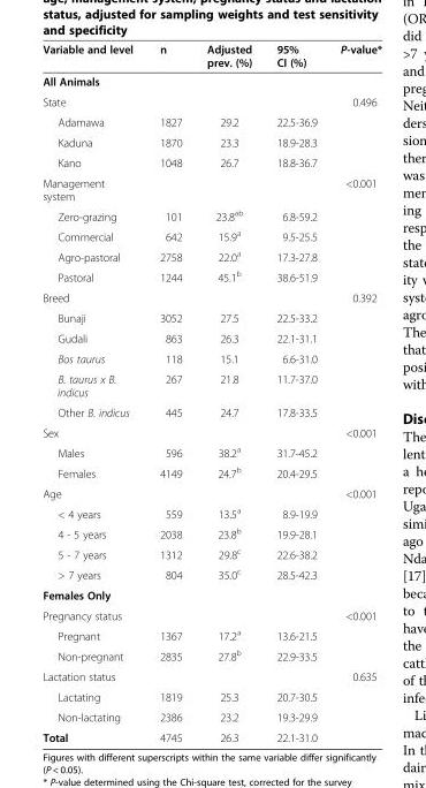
<table><thead><tr><td>Variable and level</td><td>n</td><td>Adjusted prev. (%)</td><td>95% CI (%)</td><td>P-value*</td></tr></thead><tbody><tr><td colspan="5">All Animals</td></tr><tr><td>State</td><td></td><td></td><td></td><td>0.496</td></tr><tr><td>Adamawa</td><td>1827</td><td>29.2</td><td>22.5-36.9</td><td></td></tr><tr><td>Kaduna</td><td>1870</td><td>23.3</td><td>18.9-28.3</td><td></td></tr><tr><td>Kano</td><td>1048</td><td>26.7</td><td>18.8-36.7</td><td></td></tr><tr><td>Management system</td><td></td><td></td><td></td><td>&lt;0.001</td></tr><tr><td>Zero-grazing</td><td>101</td><td>23.8<sup>ab</sup></td><td>6.8-59.2</td><td></td></tr><tr><td>Commercial</td><td>642</td><td>15.9<sup>a</sup></td><td>9.5-25.5</td><td></td></tr><tr><td>Agro-pastoral</td><td>2758</td><td>22.0<sup>a</sup></td><td>17.3-27.8</td><td></td></tr><tr><td>Pastoral</td><td>1244</td><td>45.1<sup>b</sup></td><td>38.6-51.9</td><td></td></tr><tr><td>Breed</td><td></td><td></td><td></td><td>0.392</td></tr><tr><td>Bunaji</td><td>3052</td><td>27.5</td><td>22.5-33.2</td><td></td></tr><tr><td>Gudali</td><td>863</td><td>26.3</td><td>22.1-31.1</td><td></td></tr><tr><td>Bos taurus</td><td>118</td><td>15.1</td><td>6.6-31.0</td><td></td></tr><tr><td>B. taurus x B. indicus</td><td>267</td><td>21.8</td><td>11.7-37.0</td><td></td></tr><tr><td>Other B. indicus</td><td>445</td><td>24.7</td><td>17.8-33.5</td><td></td></tr><tr><td>Sex</td><td></td><td></td><td></td><td>&lt;0.001</td></tr><tr><td>Males</td><td>596</td><td>38.2<sup>a</sup></td><td>31.7-45.2</td><td></td></tr><tr><td>Females</td><td>4149</td><td>24.7<sup>b</sup></td><td>20.4-29.5</td><td></td></tr><tr><td>Age</td><td></td><td></td><td></td><td>&lt;0.001</td></tr><tr><td>&lt; 4 years</td><td>559</td><td>13.5<sup>a</sup></td><td>8.9-19.9</td><td></td></tr><tr><td>4 - 5 years</td><td>2038</td><td>23.8<sup>b</sup></td><td>19.9-28.1</td><td></td></tr><tr><td>5 - 7 years</td><td>1312</td><td>29.8<sup>c</sup></td><td>22.6-38.2</td><td></td></tr><tr><td>&gt; 7 years</td><td>804</td><td>35.0<sup>c</sup></td><td>28.5-42.3</td><td></td></tr><tr><td colspan="5">Females Only</td></tr><tr><td>Pregnancy status</td><td></td><td></td><td></td><td>&lt;0.001</td></tr><tr><td>Pregnant</td><td>1367</td><td>17.2<sup>a</sup></td><td>13.6-21.5</td><td></td></tr><tr><td>Non-pregnant</td><td>2835</td><td>27.8<sup>b</sup></td><td>22.9-33.5</td><td></td></tr><tr><td>Lactation status</td><td></td><td></td><td></td><td>0.635</td></tr><tr><td>Lactating</td><td>1819</td><td>25.3</td><td>20.7-30.5</td><td></td></tr><tr><td>Non-lactating</td><td>2386</td><td>23.2</td><td>19.3-29.9</td><td></td></tr><tr><td>Total</td><td>4745</td><td>26.3</td><td>22.1-31.0</td><td></td></tr></tbody></table>